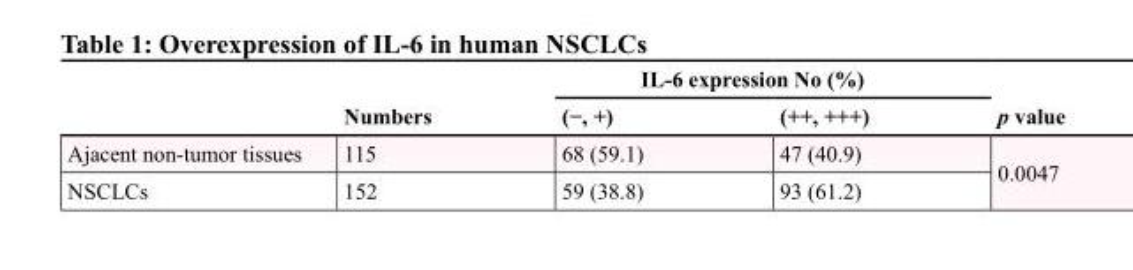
<table><thead><tr><td rowspan="2"></td><td rowspan="2">Numbers</td><td colspan="2">IL-6 expression No (%)</td><td rowspan="2">p value</td></tr><tr><td>(−, +)</td><td>(++, +++)</td></tr></thead><tbody><tr><td>Ajacent non-tumor tissues</td><td>115</td><td>68 (59.1)</td><td>47 (40.9)</td><td rowspan="2">0.0047</td></tr><tr><td>NSCLCs</td><td>152</td><td>59 (38.8)</td><td>93 (61.2)</td></tr></tbody></table>